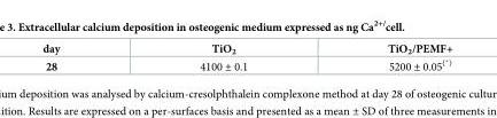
<table><thead><tr><td>day</td><td>TiO<sub>2</sub></td><td>TiO<sub>2</sub>/PEMF+</td></tr></thead><tbody><tr><td>28</td><td>4100 ± 0.1</td><td>5200 ± 0.05<sup>(*)</sup></td></tr></tbody></table>